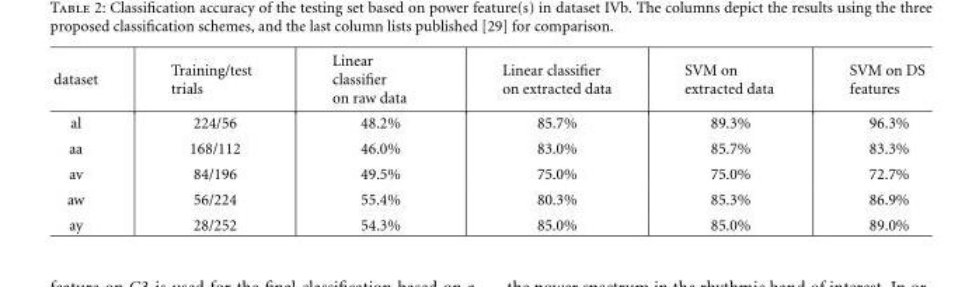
<table><thead><tr><td>dataset</td><td>Training/test trials</td><td>Linear classifier on raw data</td><td>Linear classifier on extracted data</td><td>SVM on extracted data</td><td>SVM on DS features</td></tr></thead><tbody><tr><td>al</td><td>224/56</td><td>48.2%</td><td>85.7%</td><td>89.3%</td><td>96.3%</td></tr><tr><td>aa</td><td>168/112</td><td>46.0%</td><td>83.0%</td><td>85.7%</td><td>83.3%</td></tr><tr><td>av</td><td>84/196</td><td>49.5%</td><td>75.0%</td><td>75.0%</td><td>72.7%</td></tr><tr><td>aw</td><td>56/224</td><td>55.4%</td><td>80.3%</td><td>85.3%</td><td>86.9%</td></tr><tr><td>ay</td><td>28/252</td><td>54.3%</td><td>85.0%</td><td>85.0%</td><td>89.0%</td></tr></tbody></table>